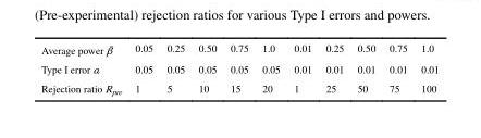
<table><tbody><tr><td>Average power β̄</td><td>0.05</td><td>0.25</td><td>0.50</td><td>0.75</td><td>1.0</td><td>0.01</td><td>0.25</td><td>0.50</td><td>0.75</td><td>1.0</td></tr><tr><td>Type I error α</td><td>0.05</td><td>0.05</td><td>0.05</td><td>0.05</td><td>0.05</td><td>0.01</td><td>0.01</td><td>0.01</td><td>0.01</td><td>0.01</td></tr><tr><td>Rejection ratio R<sub>pre</sub></td><td>1</td><td>5</td><td>10</td><td>15</td><td>20</td><td>1</td><td>25</td><td>50</td><td>75</td><td>100</td></tr></tbody></table>